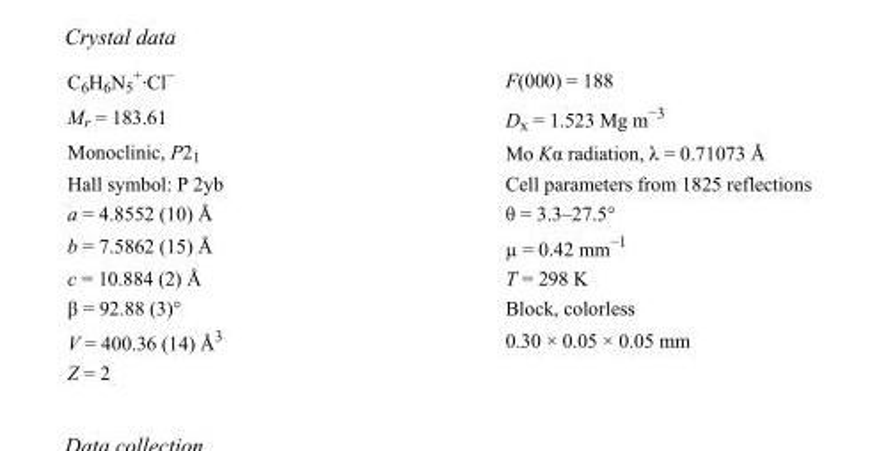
<table><tbody><tr><td>C<sub>6</sub>H<sub>6</sub>N<sub>5</sub> <sup>+</sup>·Cl<sup>−</sup></td><td>F(000) = 188</td></tr><tr><td>M<sub>r</sub> = 183.61</td><td>D<sub>x</sub> = 1.523 Mg m<sup>−3</sup></td></tr><tr><td>Monoclinic, P2<sub>1</sub></td><td>Mo Kα radiation, λ = 0.71073 Å</td></tr><tr><td>Hall symbol: P 2yb</td><td>Cell parameters from 1825 reflections</td></tr><tr><td>a = 4.8552 (10) Å</td><td>θ = 3.3–27.5°</td></tr><tr><td>b = 7.5862 (15) Å</td><td>µ = 0.42 mm<sup>−1</sup></td></tr><tr><td>c = 10.884 (2) Å</td><td>T = 298 K</td></tr><tr><td>β = 92.88 (3)°</td><td>Block, colorless</td></tr><tr><td>V = 400.36 (14) Å<sup>3</sup></td><td>0.30 × 0.05 × 0.05 mm</td></tr><tr><td>Z = 2</td><td></td></tr></tbody></table>